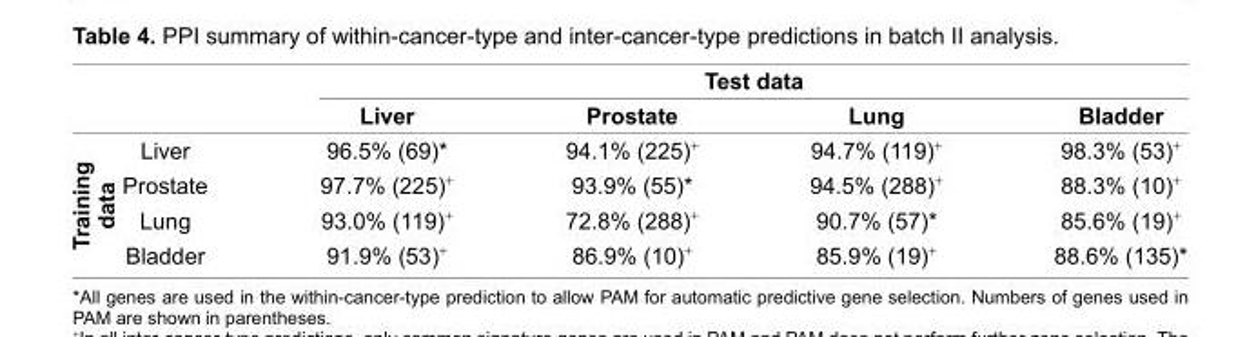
<table><thead><tr><td rowspan="2"></td><td rowspan="2"></td><td colspan="4">Test data</td></tr><tr><td>Liver</td><td>Prostate</td><td>Lung</td><td>Bladder</td></tr></thead><tbody><tr><td rowspan="4">Training data</td><td>Liver</td><td>96.5% (69)*</td><td>94.1% (225)+</td><td>94.7% (119)+</td><td>98.3% (53)+</td></tr><tr><td>Prostate</td><td>97.7% (225)+</td><td>93.9% (55)*</td><td>94.5% (288)+</td><td>88.3% (10)+</td></tr><tr><td>Lung</td><td>93.0% (119)+</td><td>72.8% (288)+</td><td>90.7% (57)*</td><td>85.6% (19)+</td></tr><tr><td>Bladder</td><td>91.9% (53)+</td><td>86.9% (10)+</td><td>85.9% (19)+</td><td>88.6% (135)*</td></tr></tbody></table>